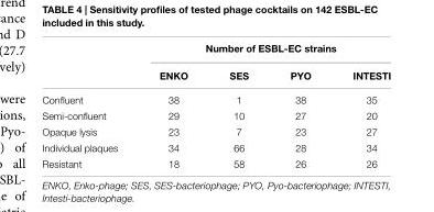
<table><thead><tr><td rowspan="2"></td><td colspan="4">Number of ESBL-EC strains</td></tr><tr><td>ENKO</td><td>SES</td><td>PYO</td><td>INTESTI</td></tr></thead><tbody><tr><td>Confluent</td><td>38</td><td>1</td><td>38</td><td>35</td></tr><tr><td>Semi-confluent</td><td>29</td><td>10</td><td>27</td><td>20</td></tr><tr><td>Opaque lysis</td><td>23</td><td>7</td><td>23</td><td>27</td></tr><tr><td>Individual plaques</td><td>34</td><td>66</td><td>28</td><td>34</td></tr><tr><td>Resistant</td><td>18</td><td>58</td><td>26</td><td>26</td></tr></tbody></table>